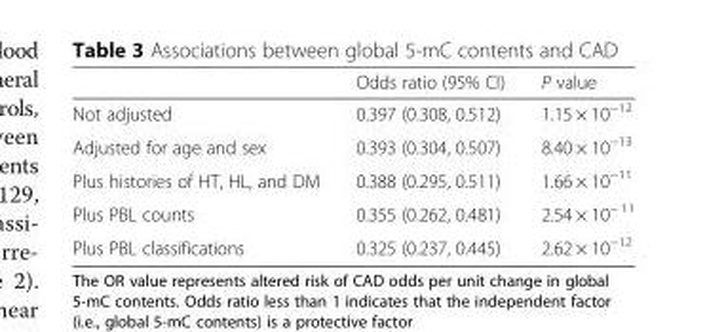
<table><thead><tr><td></td><td>Odds ratio (95% CI)</td><td>P value</td></tr></thead><tbody><tr><td>Not adjusted</td><td>0.397 (0.308, 0.512)</td><td>1.15 × 10<sup>−12</sup></td></tr><tr><td>Adjusted for age and sex</td><td>0.393 (0.304, 0.507)</td><td>8.40 × 10<sup>−13</sup></td></tr><tr><td>Plus histories of HT, HL, and DM</td><td>0.388 (0.295, 0.511)</td><td>1.66 × 10<sup>−11</sup></td></tr><tr><td>Plus PBL counts</td><td>0.355 (0.262, 0.481)</td><td>2.54 × 10<sup>− 11</sup></td></tr><tr><td>Plus PBL classifications</td><td>0.325 (0.237, 0.445)</td><td>2.62 × 10<sup>−12</sup></td></tr></tbody></table>